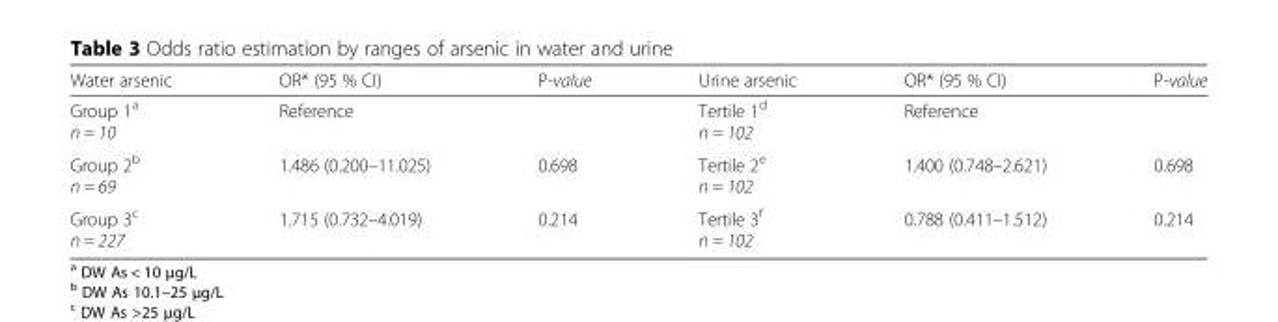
<table><thead><tr><td>Water arsenic</td><td>OR* (95 % CI)</td><td>P-value</td><td>Urine arsenic</td><td>OR* (95 % CI)</td><td>P-value</td></tr></thead><tbody><tr><td>Group 1<sup>a</sup> n = 10</td><td>Reference</td><td></td><td>Tertile 1<sup>d</sup> n = 102</td><td>Reference</td><td></td></tr><tr><td>Group 2<sup>b</sup> n = 69</td><td>1.486 (0.200–11.025)</td><td>0.698</td><td>Tertile 2<sup>e</sup> n = 102</td><td>1.400 (0.748–2.621)</td><td>0.698</td></tr><tr><td>Group 3<sup>c</sup> n = 227</td><td>1.715 (0.732–4.019)</td><td>0.214</td><td>Tertile 3<sup>f</sup> n = 102</td><td>0.788 (0.411–1.512)</td><td>0.214</td></tr></tbody></table>